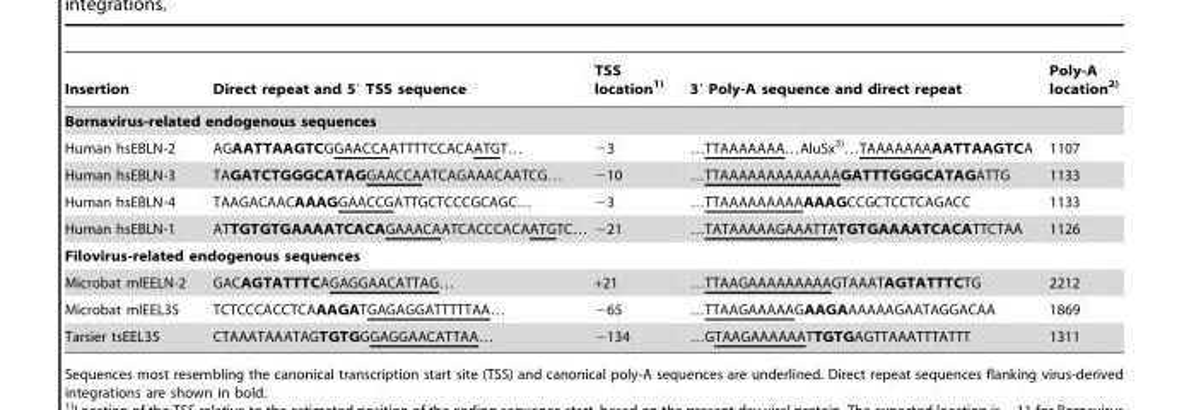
<table><thead><tr><td>Insertion</td><td>Direct repeat and 5′ TSS sequence</td><td>TSS location1)</td><td>3′ Poly-A sequence and direct repeat</td><td>Poly-A location2)</td></tr></thead><tbody><tr><td colspan="5">Bornavirus-related endogenous sequences</td></tr><tr><td>Human hsEBLN-2</td><td>AGAATTAAGTCGGAACCAATTTTCCACAATGT…</td><td>−3</td><td>…TTAAAAAAA…AluSx3)…TAAAAAAAAATTAAGTCA</td><td>1107</td></tr><tr><td>Human hsEBLN-3</td><td>TAGATCTGGGCATAGGAACCAATCAGAAACAATCG…</td><td>−10</td><td>…TTAAAAAAAAAAAAAGATTTGGGCATAGATTG</td><td>1133</td></tr><tr><td>Human hsEBLN-4</td><td>TAAGACAACAAAGGAACCGATTGCTCCCGCAGC…</td><td>−3</td><td>…TTAAAAAAAAAAAAGCCGCTCCTCAGACC</td><td>1133</td></tr><tr><td>Human hsEBLN-1</td><td>ATTGTGTGAAAATCACAGAAACAATCACCCACAATGTC…</td><td>−21</td><td>…TATAAAAAGAAATTATGTGAAAATCACATTCTAA</td><td>1126</td></tr><tr><td colspan="5">Filovirus-related endogenous sequences</td></tr><tr><td>Microbat mlEELN-2</td><td>GACAGTATTTCAGAGGAACATTAG…</td><td>+21</td><td>…TTAAGAAAAAAAAAGTAAATAGTATTTCTG</td><td>2212</td></tr><tr><td>Microbat mlEEL35</td><td>TCTCCCACCTCAAAGATGAGAGGATTTTTAA…</td><td>−65</td><td>…TTAAGAAAAAGAAGAAAAAAGAATAGGACAA</td><td>1869</td></tr><tr><td>Tarsier tsEEL35</td><td>CTAAATAAATAGTGTGGGAGGAACATTAA…</td><td>−134</td><td>…GTAAGAAAAAATTGTGAGTTAAATTTATTT</td><td>1311</td></tr></tbody></table>